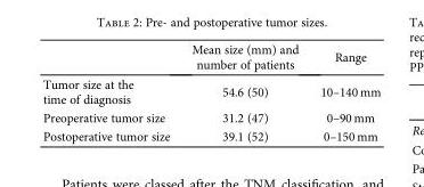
<table><thead><tr><td></td><td>Mean size (mm) and number of patients</td><td>Range</td></tr></thead><tbody><tr><td>Tumor size at the time of diagnosis</td><td>54.6 (50)</td><td>10–140 mm</td></tr><tr><td>Preoperative tumor size</td><td>31.2 (47)</td><td>0–90 mm</td></tr><tr><td>Postoperative tumor size</td><td>39.1 (52)</td><td>0–150 mm</td></tr></tbody></table>